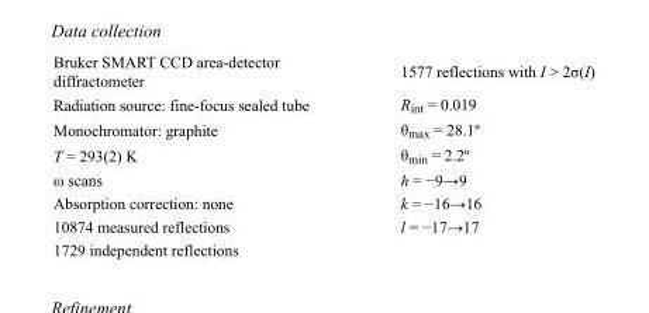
<table><tbody><tr><td>Bruker SMART CCD area-detector diffractometer</td><td>1577 reflections with I &gt; 2σ(I)</td></tr><tr><td>Radiation source: fine-focus sealed tube</td><td>R<sub>int</sub> = 0.019</td></tr><tr><td>Monochromator: graphite</td><td>θ<sub>max</sub> = 28.1º</td></tr><tr><td>T = 293(2) K</td><td>θ<sub>min</sub> = 2.2º</td></tr><tr><td>ω scans</td><td>h = −9→9</td></tr><tr><td>Absorption correction: none</td><td>k = −16→16</td></tr><tr><td>10874 measured reflections</td><td>l = −17→17</td></tr><tr><td>1729 independent reflections</td><td></td></tr></tbody></table>